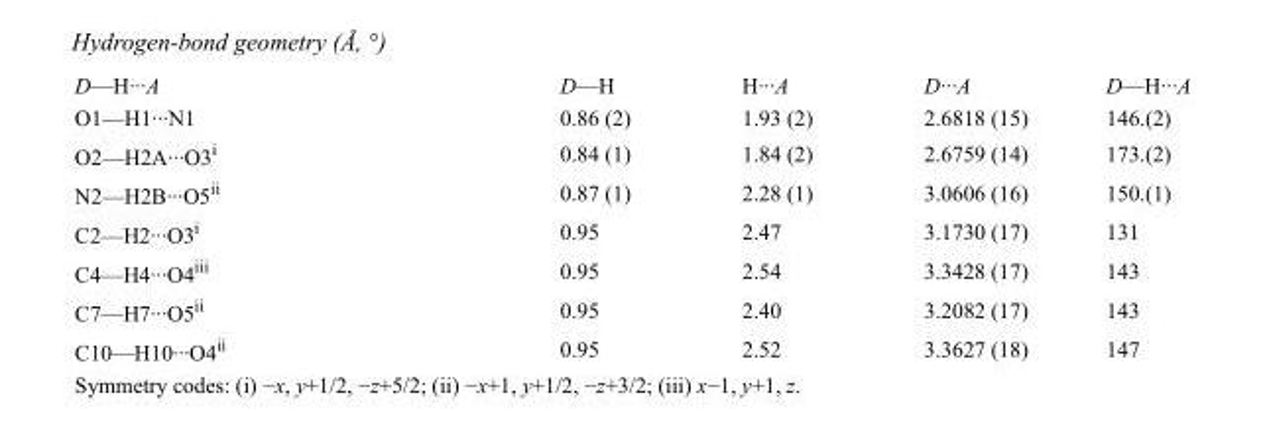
<table><tbody><tr><td>D—H···A</td><td>D—H</td><td>H···A</td><td>D···A</td><td>D—H···A</td></tr><tr><td>O1—H1···N1</td><td>0.86 (2)</td><td>1.93 (2)</td><td>2.6818 (15)</td><td>146.(2)</td></tr><tr><td>O2—H2A···O3<sup>i</sup></td><td>0.84 (1)</td><td>1.84 (2)</td><td>2.6759 (14)</td><td>173.(2)</td></tr><tr><td>N2—H2B···O5<sup>ii</sup></td><td>0.87 (1)</td><td>2.28 (1)</td><td>3.0606 (16)</td><td>150.(1)</td></tr><tr><td>C2—H2···O3<sup>i</sup></td><td>0.95</td><td>2.47</td><td>3.1730 (17)</td><td>131</td></tr><tr><td>C4—H4···O4<sup>iii</sup></td><td>0.95</td><td>2.54</td><td>3.3428 (17)</td><td>143</td></tr><tr><td>C7—H7···O5<sup>ii</sup></td><td>0.95</td><td>2.40</td><td>3.2082 (17)</td><td>143</td></tr><tr><td>C10—H10···O4<sup>ii</sup></td><td>0.95</td><td>2.52</td><td>3.3627 (18)</td><td>147</td></tr></tbody></table>